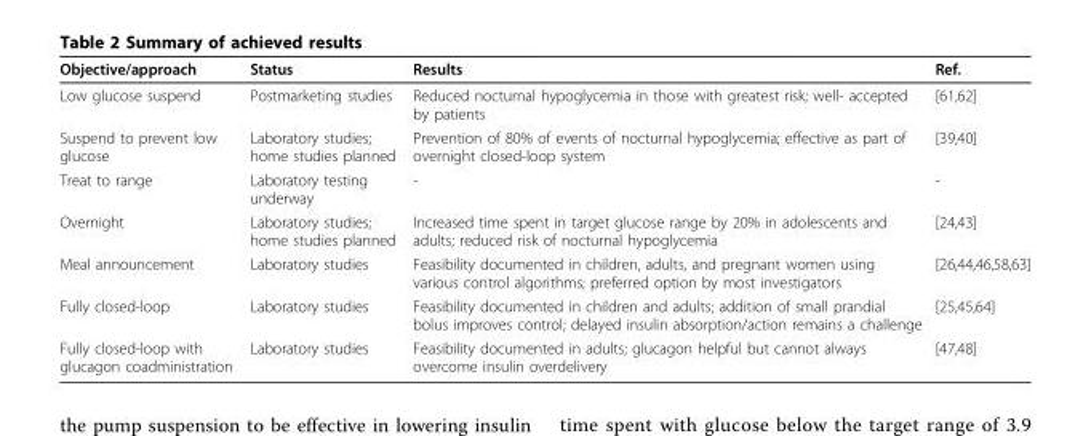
<table><thead><tr><td>Objective/approach</td><td>Status</td><td>Results</td><td>Ref.</td></tr></thead><tbody><tr><td>Low glucose suspend</td><td>Postmarketing studies</td><td>Reduced nocturnal hypoglycemia in those with greatest risk; well- accepted by patients</td><td>[61,62]</td></tr><tr><td>Suspend to prevent low glucose</td><td>Laboratory studies; home studies planned</td><td>Prevention of 80% of events of nocturnal hypoglycemia; effective as part of overnight closed-loop system</td><td>[39,40]</td></tr><tr><td>Treat to range</td><td>Laboratory testing underway</td><td>-</td><td>-</td></tr><tr><td>Overnight</td><td>Laboratory studies; home studies planned</td><td>Increased time spent in target glucose range by 20% in adolescents and adults; reduced risk of nocturnal hypoglycemia</td><td>[24,43]</td></tr><tr><td>Meal announcement</td><td>Laboratory studies</td><td>Feasibility documented in children, adults, and pregnant women using various control algorithms; preferred option by most investigators</td><td>[26,44,46,58,63]</td></tr><tr><td>Fully closed-loop</td><td>Laboratory studies</td><td>Feasibility documented in children and adults; addition of small prandial bolus improves control; delayed insulin absorption/action remains a challenge</td><td>[25,45,64]</td></tr><tr><td>Fully closed-loop with glucagon coadministration</td><td>Laboratory studies</td><td>Feasibility documented in adults; glucagon helpful but cannot always overcome insulin overdelivery</td><td>[47,48]</td></tr></tbody></table>